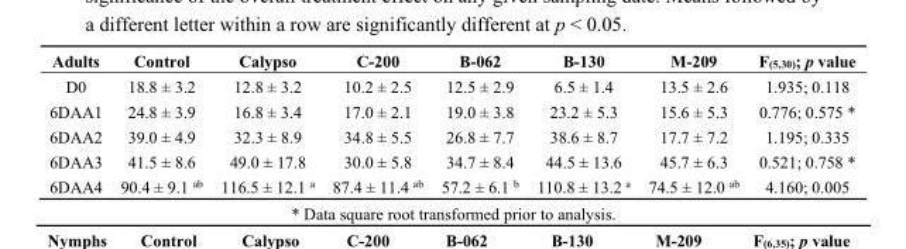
<table><thead><tr><td>Adults</td><td>Control</td><td>Calypso</td><td>C-200</td><td>B-062</td><td>B-130</td><td>M-209</td><td>F<sub>(5,30)</sub>; p value</td></tr></thead><tbody><tr><td>D0</td><td>18.8 ± 3.2</td><td>12.8 ± 3.2</td><td>10.2 ± 2.5</td><td>12.5 ± 2.9</td><td>6.5 ± 1.4</td><td>13.5 ± 2.6</td><td>1.935; 0.118</td></tr><tr><td>6DAA1</td><td>24.8 ± 3.9</td><td>16.8 ± 3.4</td><td>17.0 ± 2.1</td><td>19.0 ± 3.8</td><td>23.2 ± 5.3</td><td>15.6 ± 5.3</td><td>0.776; 0.575 *</td></tr><tr><td>6DAA2</td><td>39.0 ± 4.9</td><td>32.3 ± 8.9</td><td>34.8 ± 5.5</td><td>26.8 ± 7.7</td><td>38.6 ± 8.7</td><td>17.7 ± 7.2</td><td>1.195; 0.335</td></tr><tr><td>6DAA3</td><td>41.5 ± 8.6</td><td>49.0 ± 17.8</td><td>30.0 ± 5.8</td><td>34.7 ± 8.4</td><td>44.5 ± 13.6</td><td>45.7 ± 6.3</td><td>0.521; 0.758 *</td></tr><tr><td>6DAA4</td><td>90.4 ± 9.1 <sup>ab</sup></td><td>116.5 ± 12.1 <sup>a</sup></td><td>87.4 ± 11.4 <sup>ab</sup></td><td>57.2 ± 6.1 <sup>b</sup></td><td>110.8 ± 13.2 <sup>a</sup></td><td>74.5 ± 12.0 <sup>ab</sup></td><td>4.160; 0.005</td></tr></tbody></table>